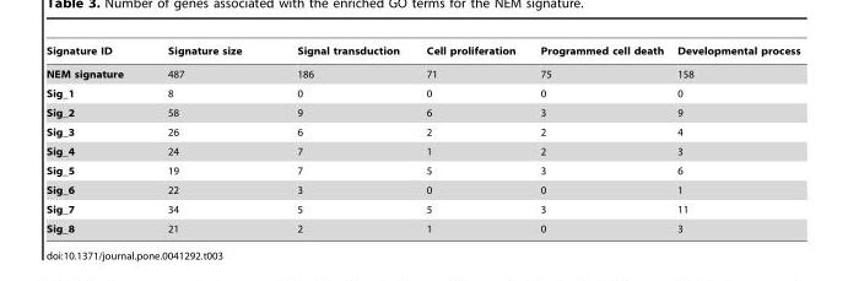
<table><thead><tr><td>Signature ID</td><td>Signature size</td><td>Signal transduction</td><td>Cell proliferation</td><td>Programmed cell death</td><td>Developmental process</td></tr></thead><tbody><tr><td>NEM signature</td><td>487</td><td>186</td><td>71</td><td>75</td><td>158</td></tr><tr><td>Sig_1</td><td>8</td><td>0</td><td>0</td><td>0</td><td>0</td></tr><tr><td>Sig_2</td><td>58</td><td>9</td><td>6</td><td>3</td><td>9</td></tr><tr><td>Sig_3</td><td>26</td><td>6</td><td>2</td><td>2</td><td>4</td></tr><tr><td>Sig_4</td><td>24</td><td>7</td><td>1</td><td>2</td><td>3</td></tr><tr><td>Sig_5</td><td>19</td><td>7</td><td>5</td><td>3</td><td>6</td></tr><tr><td>Sig_6</td><td>22</td><td>3</td><td>0</td><td>0</td><td>1</td></tr><tr><td>Sig_7</td><td>34</td><td>5</td><td>5</td><td>3</td><td>11</td></tr><tr><td>Sig_8</td><td>21</td><td>2</td><td>1</td><td>0</td><td>3</td></tr></tbody></table>